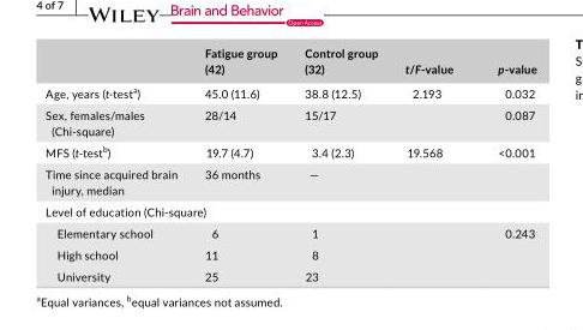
<table><thead><tr><td></td><td>Fatigue group (42)</td><td>Control group (32)</td><td>t/F- value</td><td>p- value</td></tr></thead><tbody><tr><td>Age, years (t- test<sup>a</sup>)</td><td>45.0 (11.6)</td><td>38.8 (12.5)</td><td>2.193</td><td>0.032</td></tr><tr><td>Sex, females/males (Chi- square)</td><td>28/14</td><td>15/17</td><td></td><td>0.087</td></tr><tr><td>MFS (t- test<sup>b</sup>)</td><td>19.7 (4.7)</td><td>3.4 (2.3)</td><td>19.568</td><td>&lt;0.001</td></tr><tr><td>Time since acquired brain injury, median</td><td>36 months</td><td>—</td><td></td><td></td></tr><tr><td colspan="5">Level of education (Chi- square)</td></tr><tr><td>Elementary school</td><td>6</td><td>1</td><td></td><td rowspan="3">0.243</td></tr><tr><td>High school</td><td>11</td><td>8</td><td></td></tr><tr><td>University</td><td>25</td><td>23</td><td></td></tr></tbody></table>